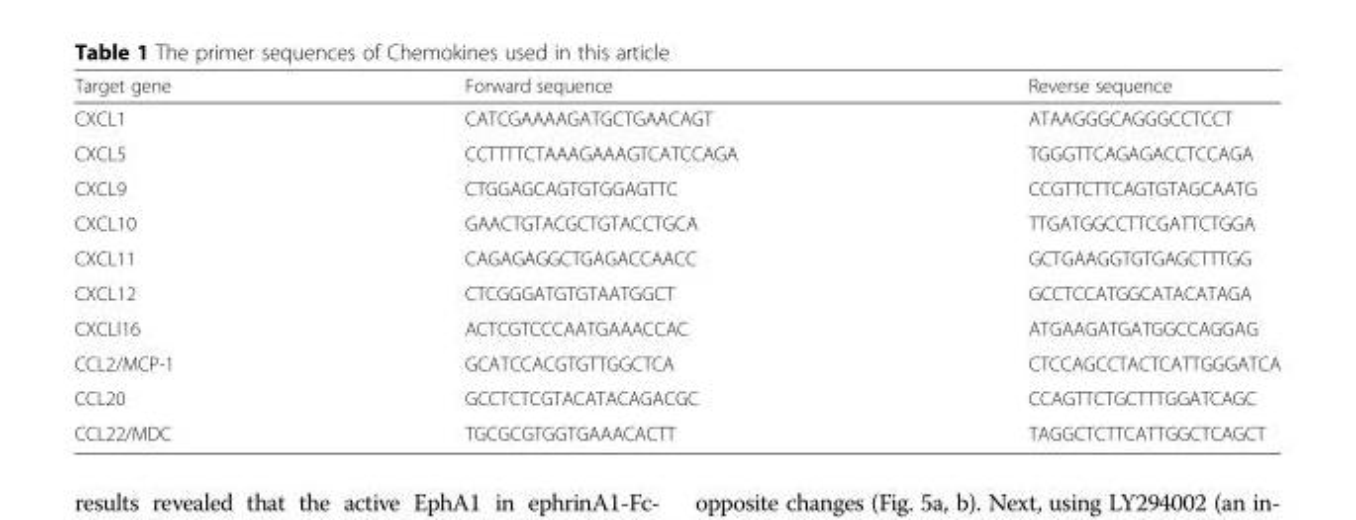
<table><thead><tr><td>Target gene</td><td>Forward sequence</td><td>Reverse sequence</td></tr></thead><tbody><tr><td>CXCL1</td><td>CATCGAAAAGATGCTGAACAGT</td><td>ATAAGGGCAGGGCCTCCT</td></tr><tr><td>CXCL5</td><td>CCTTTTCTAAAGAAAGTCATCCAGA</td><td>TGGGTTCAGAGACCTCCAGA</td></tr><tr><td>CXCL9</td><td>CTGGAGCAGTGTGGAGTTC</td><td>CCGTTCTTCAGTGTAGCAATG</td></tr><tr><td>CXCL10</td><td>GAACTGTACGCTGTACCTGCA</td><td>TTGATGGCCTTCGATTCTGGA</td></tr><tr><td>CXCL11</td><td>CAGAGAGGCTGAGACCAACC</td><td>GCTGAAGGTGTGAGCTTTGG</td></tr><tr><td>CXCL12</td><td>CTCGGGATGTGTAATGGCT</td><td>GCCTCCATGGCATACATAGA</td></tr><tr><td>CXCLl16</td><td>ACTCGTCCCAATGAAACCAC</td><td>ATGAAGATGATGGCCAGGAG</td></tr><tr><td>CCL2/MCP-1</td><td>GCATCCACGTGTTGGCTCA</td><td>CTCCAGCCTACTCATTGGGATCA</td></tr><tr><td>CCL20</td><td>GCCTCTCGTACATACAGACGC</td><td>CCAGTTCTGCTTTGGATCAGC</td></tr><tr><td>CCL22/MDC</td><td>TGCGCGTGGTGAAACACTT</td><td>TAGGCTCTTCATTGGCTCAGCT</td></tr></tbody></table>